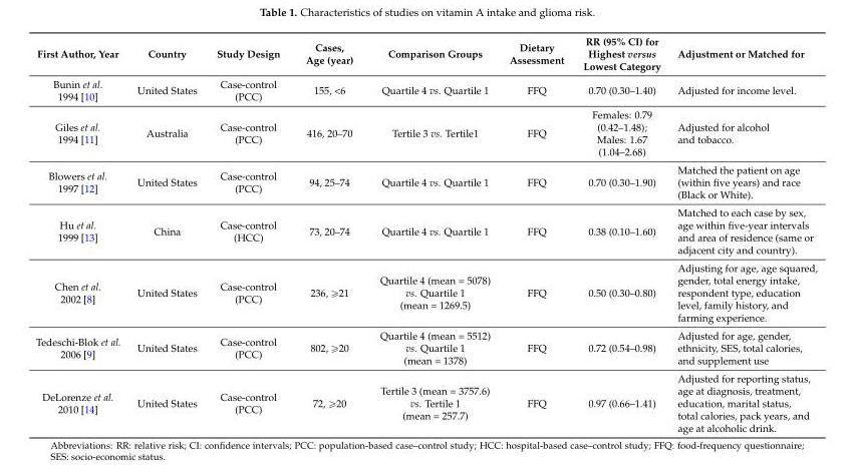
<table><thead><tr><td>First Author, Year</td><td>Country</td><td>Study Design</td><td>Cases, Age (year)</td><td>Comparison Groups</td><td>Dietary Assessment</td><td>RR (95% CI) for Highest versus Lowest Category</td><td>Adjustment or Matched for</td></tr></thead><tbody><tr><td>Bunin et al. 1994 [10]</td><td>United States</td><td>Case-control (PCC)</td><td>155, &lt;6</td><td>Quartile 4 vs. Quartile 1</td><td>FFQ</td><td>0.70 (0.30–1.40)</td><td>Adjusted for income level.</td></tr><tr><td>Giles et al. 1994 [11]</td><td>Australia</td><td>Case-control (PCC)</td><td>416, 20–70</td><td>Tertile 3 vs. Tertile1</td><td>FFQ</td><td>Females: 0.79 (0.42–1.48); Males: 1.67 (1.04–2.68)</td><td>Adjusted for alcohol and tobacco.</td></tr><tr><td>Blowers et al. 1997 [12]</td><td>United States</td><td>Case-control (PCC)</td><td>94, 25–74</td><td>Quartile 4 vs. Quartile 1</td><td>FFQ</td><td>0.70 (0.30–1.90)</td><td>Matched the patient on age (within five years) and race (Black or White).</td></tr><tr><td>Hu et al. 1999 [13]</td><td>China</td><td>Case-control (HCC)</td><td>73, 20–74</td><td>Quartile 4 vs. Quartile 1</td><td>FFQ</td><td>0.38 (0.10–1.60)</td><td>Matched to each case by sex, age within five-year intervals and area of residence (same or adjacent city and country).</td></tr><tr><td>Chen et al. 2002 [8]</td><td>United States</td><td>Case-control (PCC)</td><td>236, ě21</td><td>Quartile 4 (mean = 5078) vs. Quartile 1 (mean = 1269.5)</td><td>FFQ</td><td>0.50 (0.30–0.80)</td><td>Adjusting for age, age squared, gender, total energy intake, respondent type, education level, family history, and farming experience.</td></tr><tr><td>Tedeschi-Blok et al. 2006 [9]</td><td>United States</td><td>Case-control (PCC)</td><td>802, ě20</td><td>Quartile 4 (mean = 5512) vs. Quartile 1 (mean = 1378)</td><td>FFQ</td><td>0.72 (0.54–0.98)</td><td>Adjusted for age, gender, ethnicity, SES, total calories, and supplement use</td></tr><tr><td>DeLorenze et al. 2010 [14]</td><td>United States</td><td>Case-control (PCC)</td><td>72, ě20</td><td>Tertile 3 (mean = 3757.6) vs. Tertile 1 (mean = 257.7)</td><td>FFQ</td><td>0.97 (0.66–1.41)</td><td>Adjusted for reporting status, age at diagnosis, treatment, education, marital status, total calories, pack years, and age at alcoholic drink.</td></tr></tbody></table>